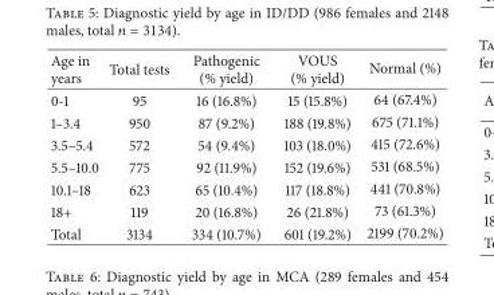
<table><thead><tr><td>Age in years</td><td>Total tests</td><td>Pathogenic (% yield)</td><td>VOUS (% yield)</td><td>Normal (%)</td></tr></thead><tbody><tr><td>0-1</td><td>95</td><td>16 (16.8%)</td><td>15 (15.8%)</td><td>64 (67.4%)</td></tr><tr><td>1–3.4</td><td>950</td><td>87 (9.2%)</td><td>188 (19.8%)</td><td>675 (71.1%)</td></tr><tr><td>3.5–5.4</td><td>572</td><td>54 (9.4%)</td><td>103 (18.0%)</td><td>415 (72.6%)</td></tr><tr><td>5.5–10.0</td><td>775</td><td>92 (11.9%)</td><td>152 (19.6%)</td><td>531 (68.5%)</td></tr><tr><td>10.1–18</td><td>623</td><td>65 (10.4%)</td><td>117 (18.8%)</td><td>441 (70.8%)</td></tr><tr><td>18+</td><td>119</td><td>20 (16.8%)</td><td>26 (21.8%)</td><td>73 (61.3%)</td></tr><tr><td>Total</td><td>3134</td><td>334 (10.7%)</td><td>601 (19.2%)</td><td>2199 (70.2%)</td></tr></tbody></table>